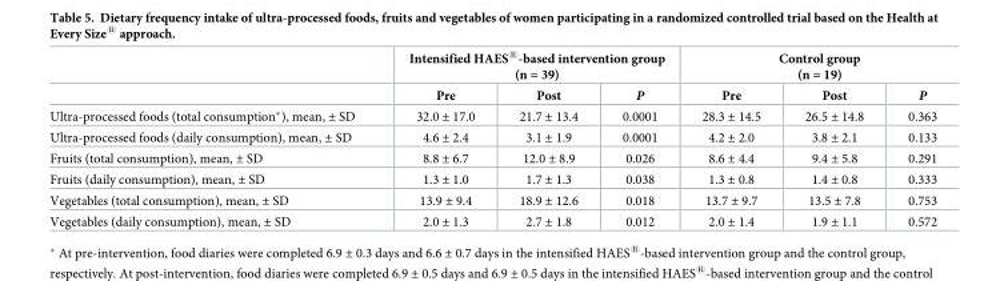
<table><thead><tr><td rowspan="2"></td><td colspan="3">Intensified HAES<sup>®</sup>-based intervention group (n = 39)</td><td colspan="3">Control group (n = 19)</td></tr><tr><td>Pre</td><td>Post</td><td>P</td><td>Pre</td><td>Post</td><td>P</td></tr></thead><tbody><tr><td>Ultra-processed foods (total consumption*), mean, ± SD</td><td>32.0 ± 17.0</td><td>21.7 ± 13.4</td><td>0.0001</td><td>28.3 ± 14.5</td><td>26.5 ± 14.8</td><td>0.363</td></tr><tr><td>Ultra-processed foods (daily consumption), mean, ± SD</td><td>4.6 ± 2.4</td><td>3.1 ± 1.9</td><td>0.0001</td><td>4.2 ± 2.0</td><td>3.8 ± 2.1</td><td>0.133</td></tr><tr><td>Fruits (total consumption), mean, ± SD</td><td>8.8 ± 6.7</td><td>12.0 ± 8.9</td><td>0.026</td><td>8.6 ± 4.4</td><td>9.4 ± 5.8</td><td>0.291</td></tr><tr><td>Fruits (daily consumption), mean, ± SD</td><td>1.3 ± 1.0</td><td>1.7 ± 1.3</td><td>0.038</td><td>1.3 ± 0.8</td><td>1.4 ± 0.8</td><td>0.333</td></tr><tr><td>Vegetables (total consumption), mean, ± SD</td><td>13.9 ± 9.4</td><td>18.9 ± 12.6</td><td>0.018</td><td>13.7 ± 9.7</td><td>13.5 ± 7.8</td><td>0.753</td></tr><tr><td>Vegetables (daily consumption), mean, ± SD</td><td>2.0 ± 1.3</td><td>2.7 ± 1.8</td><td>0.012</td><td>2.0 ± 1.4</td><td>1.9 ± 1.1</td><td>0.572</td></tr></tbody></table>